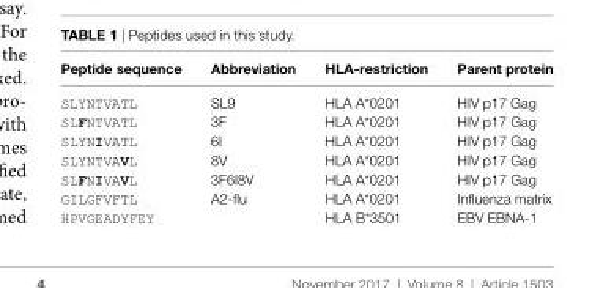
<table><thead><tr><td>Peptide sequence</td><td>abbreviation</td><td>hla-restriction</td><td>Parent protein</td></tr></thead><tbody><tr><td>SLYNTVATL</td><td>SL9</td><td>HLA A*0201</td><td>HIV p17 Gag</td></tr><tr><td>SLFNTVATL</td><td>3F</td><td>HLA A*0201</td><td>HIV p17 Gag</td></tr><tr><td>SLYNIVATL</td><td>6I</td><td>HLA A*0201</td><td>HIV p17 Gag</td></tr><tr><td>SLYNTVAVL</td><td>8V</td><td>HLA A*0201</td><td>HIV p17 Gag</td></tr><tr><td>SLFNIVAVL</td><td>3F6I8V</td><td>HLA A*0201</td><td>HIV p17 Gag</td></tr><tr><td>GILGFVFTL</td><td>A2-flu</td><td>HLA A*0201</td><td>Influenza matrix</td></tr><tr><td>HPVGEADYFEY</td><td></td><td>HLA B*3501</td><td>EBV EBNA-1</td></tr></tbody></table>